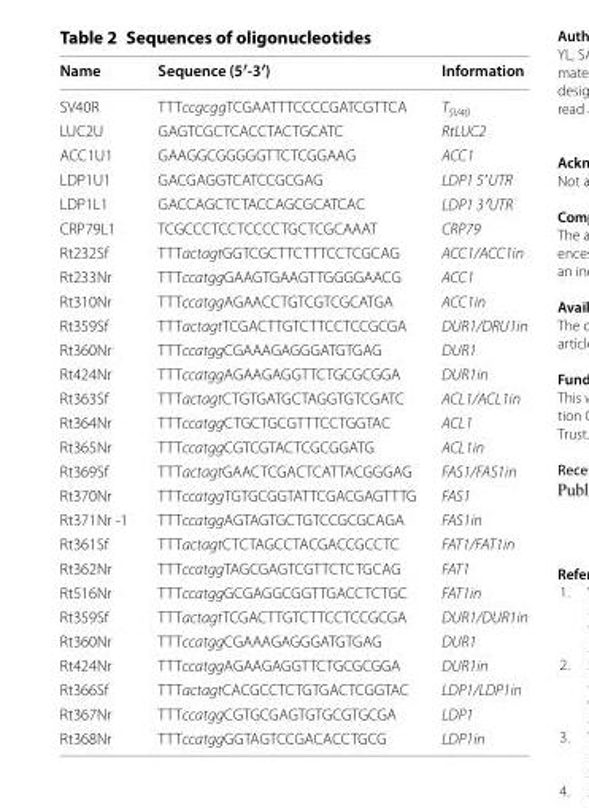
<table><thead><tr><td>Name</td><td>Sequence (5′‑3′)</td><td>Information</td></tr></thead><tbody><tr><td>SV40R</td><td>TTTccgcggTCGAATTTCCCCGATCGTTCA</td><td>T<sub>SV40</sub></td></tr><tr><td>LUC2U</td><td>GAGTCGCTCACCTACTGCATC</td><td>RtLUC2</td></tr><tr><td>ACC1U1</td><td>GAAGGCGGGGGTTCTCGGAAG</td><td>ACC1</td></tr><tr><td>LDP1U1</td><td>GACGAGGTCATCCGCGAG</td><td>LDP1 5′UTR</td></tr><tr><td>LDP1L1</td><td>GACCAGCTCTACCAGCGCATCAC</td><td>LDP1 3′UTR</td></tr><tr><td>CRP79L1</td><td>TCGCCCTCCTCCCCTGCTCGCAAAT</td><td>CRP79</td></tr><tr><td>Rt232Sf</td><td>TTTactagtGGTCGCTTCTTTCCTCGCAG</td><td>ACC1/ACC1in</td></tr><tr><td>Rt233Nr</td><td>TTTccatggGAAGTGAAGTTGGGGAACG</td><td>ACC1</td></tr><tr><td>Rt310Nr</td><td>TTTccatggAGAACCTGTCGTCGCATGA</td><td>ACC1in</td></tr><tr><td>Rt359Sf</td><td>TTTactagtTCGACTTGTCTTCCTCCGCGA</td><td>DUR1/DRU1in</td></tr><tr><td>Rt360Nr</td><td>TTTccatggCGAAAGAGGGATGTGAG</td><td>DUR1</td></tr><tr><td>Rt424Nr</td><td>TTTccatggAGAAGAGGTTCTGCGCGGA</td><td>DUR1in</td></tr><tr><td>Rt363Sf</td><td>TTTactagtCTGTGATGCTAGGTGTCGATC</td><td>ACL1/ACL1in</td></tr><tr><td>Rt364Nr</td><td>TTTccatggCTGCTGCGTTTCCTGGTAC</td><td>ACL1</td></tr><tr><td>Rt365Nr</td><td>TTTccatggCGTCGTACTCGCGGATG</td><td>ACL1in</td></tr><tr><td>Rt369Sf</td><td>TTTactagtGAACTCGACTCATTACGGGAG</td><td>FAS1/FAS1in</td></tr><tr><td>Rt370Nr</td><td>TTTccatggTGTGCGGTATTCGACGAGTTTG</td><td>FAS1</td></tr><tr><td>Rt371Nr -1</td><td>TTTccatggAGTAGTGCTGTCCGCGCAGA</td><td>FAS1in</td></tr><tr><td>Rt361Sf</td><td>TTTactagtCTCTAGCCTACGACCGCCTC</td><td>FAT1/FAT1in</td></tr><tr><td>Rt362Nr</td><td>TTTccatggTAGCGAGTCGTTCTCTGCAG</td><td>FAT1</td></tr><tr><td>Rt516Nr</td><td>TTTccatggGCGAGGCGGTTGACCTCTGC</td><td>FAT1in</td></tr><tr><td>Rt359Sf</td><td>TTTactagtTCGACTTGTCTTCCTCCGCGA</td><td>DUR1/DUR1in</td></tr><tr><td>Rt360Nr</td><td>TTTccatggCGAAAGAGGGATGTGAG</td><td>DUR1</td></tr><tr><td>Rt424Nr</td><td>TTTccatggAGAAGAGGTTCTGCGCGGA</td><td>DUR1in</td></tr><tr><td>Rt366Sf</td><td>TTTactagtCACGCCTCTGTGACTCGGTAC</td><td>LDP1/LDP1in</td></tr><tr><td>Rt367Nr</td><td>TTTccatggCGTGCGAGTGTGCGTGCGA</td><td>LDP1</td></tr><tr><td>Rt368Nr</td><td>TTTccatggGGTAGTCCGACACCTGCG</td><td>LDP1in</td></tr></tbody></table>